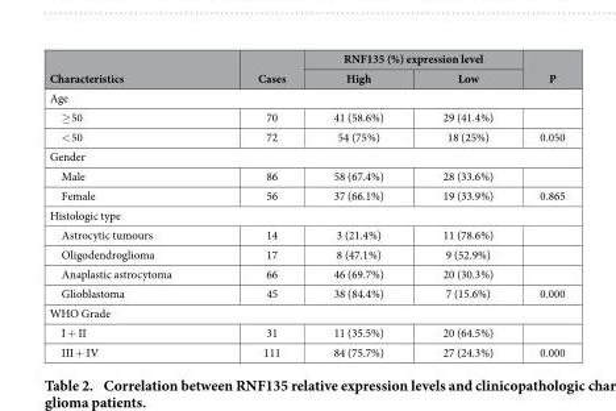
<table><thead><tr><td rowspan="2">Characteristics</td><td rowspan="2">Cases</td><td colspan="2">RNF135 (%) expression level</td><td rowspan="2">P</td></tr><tr><td>High</td><td>Low</td></tr></thead><tbody><tr><td colspan="5">Age</td></tr><tr><td>≥ 50</td><td>70</td><td>41 (58.6%)</td><td>29 (41.4%)</td><td></td></tr><tr><td>&lt; 50</td><td>72</td><td>54 (75%)</td><td>18 (25%)</td><td>0.050</td></tr><tr><td colspan="5">Gender</td></tr><tr><td>Male</td><td>86</td><td>58 (67.4%)</td><td>28 (33.6%)</td><td></td></tr><tr><td>Female</td><td>56</td><td>37 (66.1%)</td><td>19 (33.9%)</td><td>0.865</td></tr><tr><td colspan="5">Histologic type</td></tr><tr><td>Astrocytic tumours</td><td>14</td><td>3 (21.4%)</td><td>11 (78.6%)</td><td></td></tr><tr><td>Oligodendroglioma</td><td>17</td><td>8 (47.1%)</td><td>9 (52.9%)</td><td></td></tr><tr><td>Anaplastic astrocytoma</td><td>66</td><td>46 (69.7%)</td><td>20 (30.3%)</td><td></td></tr><tr><td>Glioblastoma</td><td>45</td><td>38 (84.4%)</td><td>7 (15.6%)</td><td>0.000</td></tr><tr><td colspan="5">WHO Grade</td></tr><tr><td>I + II</td><td>31</td><td>11 (35.5%)</td><td>20 (64.5%)</td><td></td></tr><tr><td>III + IV</td><td>111</td><td>84 (75.7%)</td><td>27 (24.3%)</td><td>0.000</td></tr></tbody></table>